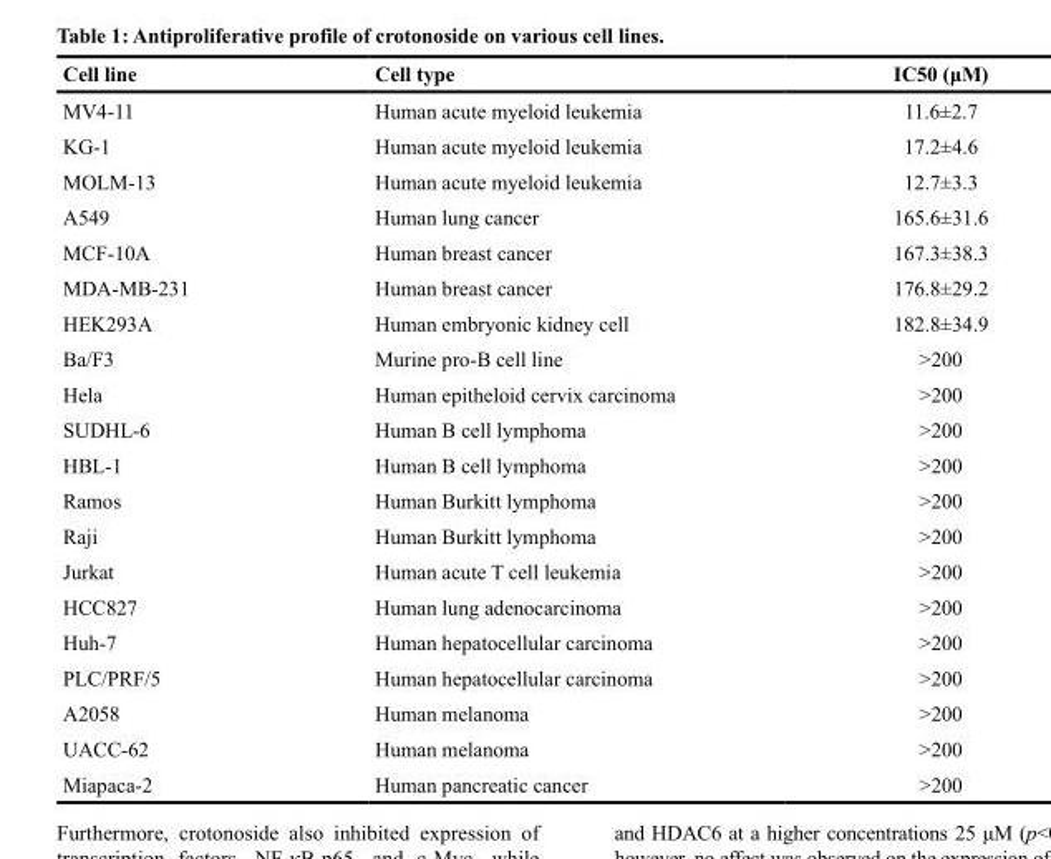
<table><thead><tr><td>Cell line</td><td>Cell type</td><td>IC50 (μM)</td></tr></thead><tbody><tr><td>MV4-11</td><td>Human acute myeloid leukemia</td><td>11.6±2.7</td></tr><tr><td>KG-1</td><td>Human acute myeloid leukemia</td><td>17.2±4.6</td></tr><tr><td>MOLM-13</td><td>Human acute myeloid leukemia</td><td>12.7±3.3</td></tr><tr><td>A549</td><td>Human lung cancer</td><td>165.6±31.6</td></tr><tr><td>MCF-10A</td><td>Human breast cancer</td><td>167.3±38.3</td></tr><tr><td>MDA-MB-231</td><td>Human breast cancer</td><td>176.8±29.2</td></tr><tr><td>HEK293A</td><td>Human embryonic kidney cell</td><td>182.8±34.9</td></tr><tr><td>Ba/F3</td><td>Murine pro-B cell line</td><td>&gt;200</td></tr><tr><td>Hela</td><td>Human epitheloid cervix carcinoma</td><td>&gt;200</td></tr><tr><td>SUDHL-6</td><td>Human B cell lymphoma</td><td>&gt;200</td></tr><tr><td>HBL-1</td><td>Human B cell lymphoma</td><td>&gt;200</td></tr><tr><td>Ramos</td><td>Human Burkitt lymphoma</td><td>&gt;200</td></tr><tr><td>Raji</td><td>Human Burkitt lymphoma</td><td>&gt;200</td></tr><tr><td>Jurkat</td><td>Human acute T cell leukemia</td><td>&gt;200</td></tr><tr><td>HCC827</td><td>Human lung adenocarcinoma</td><td>&gt;200</td></tr><tr><td>Huh-7</td><td>Human hepatocellular carcinoma</td><td>&gt;200</td></tr><tr><td>PLC/PRF/5</td><td>Human hepatocellular carcinoma</td><td>&gt;200</td></tr><tr><td>A2058</td><td>Human melanoma</td><td>&gt;200</td></tr><tr><td>UACC-62</td><td>Human melanoma</td><td>&gt;200</td></tr><tr><td>Miapaca-2</td><td>Human pancreatic cancer</td><td>&gt;200</td></tr></tbody></table>